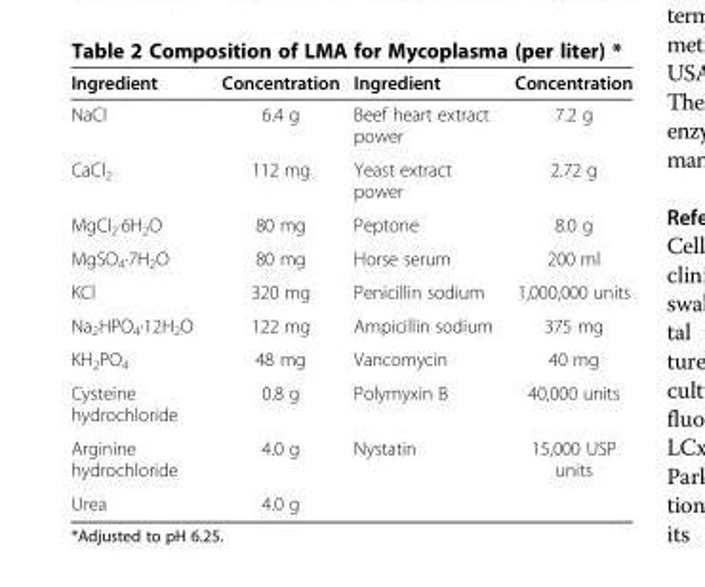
<table><thead><tr><td>Ingredient</td><td>Concentration</td><td>Ingredient</td><td>Concentration</td></tr></thead><tbody><tr><td>NaCl</td><td>6.4 g</td><td>Beef heart extract power</td><td>7.2 g</td></tr><tr><td>CaCl<sub>2</sub></td><td>112 mg</td><td>Yeast extract power</td><td>2.72 g</td></tr><tr><td>MgCl<sub>2</sub>·6H<sub>2</sub>O</td><td>80 mg</td><td>Peptone</td><td>8.0 g</td></tr><tr><td>MgSO<sub>4</sub>·7H<sub>2</sub>O</td><td>80 mg</td><td>Horse serum</td><td>200 ml</td></tr><tr><td>KCl</td><td>320 mg</td><td>Penicillin sodium</td><td>1,000,000 units</td></tr><tr><td>Na<sub>2</sub>HPO<sub>4</sub>·12H<sub>2</sub>O</td><td>122 mg</td><td>Ampicillin sodium</td><td>375 mg</td></tr><tr><td>KH<sub>2</sub>PO<sub>4</sub></td><td>48 mg</td><td>Vancomycin</td><td>40 mg</td></tr><tr><td>Cysteine hydrochloride</td><td>0.8 g</td><td>Polymyxin B</td><td>40,000 units</td></tr><tr><td>Arginine hydrochloride</td><td>4.0 g</td><td>Nystatin</td><td>15,000 USP units</td></tr><tr><td>Urea</td><td>4.0 g</td><td></td><td></td></tr></tbody></table>